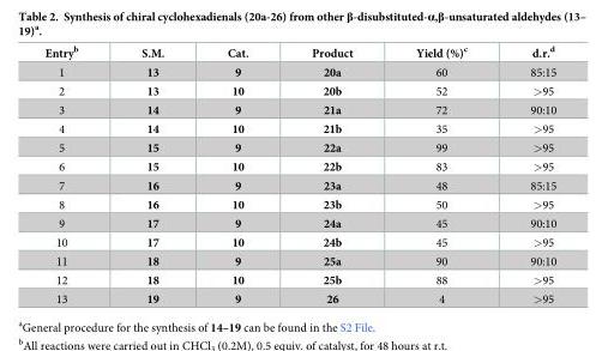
<table><thead><tr><td>Entry<sup>b</sup></td><td>S.M.</td><td>Cat.</td><td>Product</td><td>Yield (%)<sup>c</sup></td><td>d.r.<sup>d</sup></td></tr></thead><tbody><tr><td>1</td><td>13</td><td>9</td><td>20a</td><td>60</td><td>85:15</td></tr><tr><td>2</td><td>13</td><td>10</td><td>20b</td><td>52</td><td>&gt;95</td></tr><tr><td>3</td><td>14</td><td>9</td><td>21a</td><td>72</td><td>90:10</td></tr><tr><td>4</td><td>14</td><td>10</td><td>21b</td><td>35</td><td>&gt;95</td></tr><tr><td>5</td><td>15</td><td>9</td><td>22a</td><td>99</td><td>&gt;95</td></tr><tr><td>6</td><td>15</td><td>10</td><td>22b</td><td>83</td><td>&gt;95</td></tr><tr><td>7</td><td>16</td><td>9</td><td>23a</td><td>48</td><td>85:15</td></tr><tr><td>8</td><td>16</td><td>10</td><td>23b</td><td>50</td><td>&gt;95</td></tr><tr><td>9</td><td>17</td><td>9</td><td>24a</td><td>45</td><td>90:10</td></tr><tr><td>10</td><td>17</td><td>10</td><td>24b</td><td>45</td><td>&gt;95</td></tr><tr><td>11</td><td>18</td><td>9</td><td>25a</td><td>90</td><td>90:10</td></tr><tr><td>12</td><td>18</td><td>10</td><td>25b</td><td>88</td><td>&gt;95</td></tr><tr><td>13</td><td>19</td><td>9</td><td>26</td><td>4</td><td>&gt;95</td></tr></tbody></table>